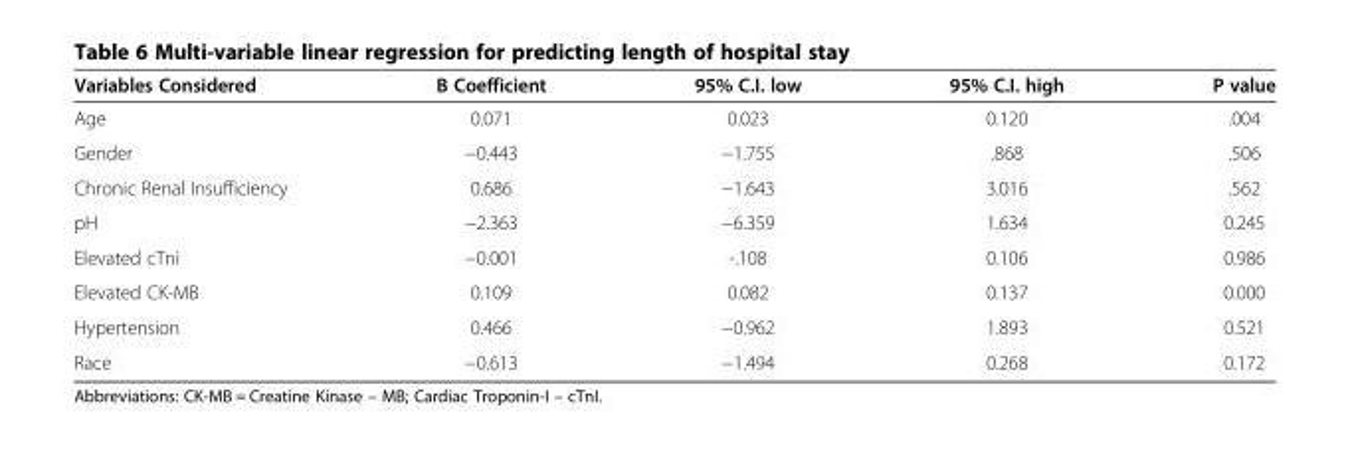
<table><thead><tr><td>Variables Considered</td><td>B Coefficient</td><td>95% C.I. low</td><td>95% C.I. high</td><td>P value</td></tr></thead><tbody><tr><td>Age</td><td>0.071</td><td>0.023</td><td>0.120</td><td>.004</td></tr><tr><td>Gender</td><td>−0.443</td><td>−1.755</td><td>.868</td><td>.506</td></tr><tr><td>Chronic Renal Insufficiency</td><td>0.686</td><td>−1.643</td><td>3.016</td><td>.562</td></tr><tr><td>pH</td><td>−2.363</td><td>−6.359</td><td>1.634</td><td>0.245</td></tr><tr><td>Elevated cTni</td><td>−0.001</td><td>-.108</td><td>0.106</td><td>0.986</td></tr><tr><td>Elevated CK-MB</td><td>0.109</td><td>0.082</td><td>0.137</td><td>0.000</td></tr><tr><td>Hypertension</td><td>0.466</td><td>−0.962</td><td>1.893</td><td>0.521</td></tr><tr><td>Race</td><td>−0.613</td><td>−1.494</td><td>0.268</td><td>0.172</td></tr></tbody></table>